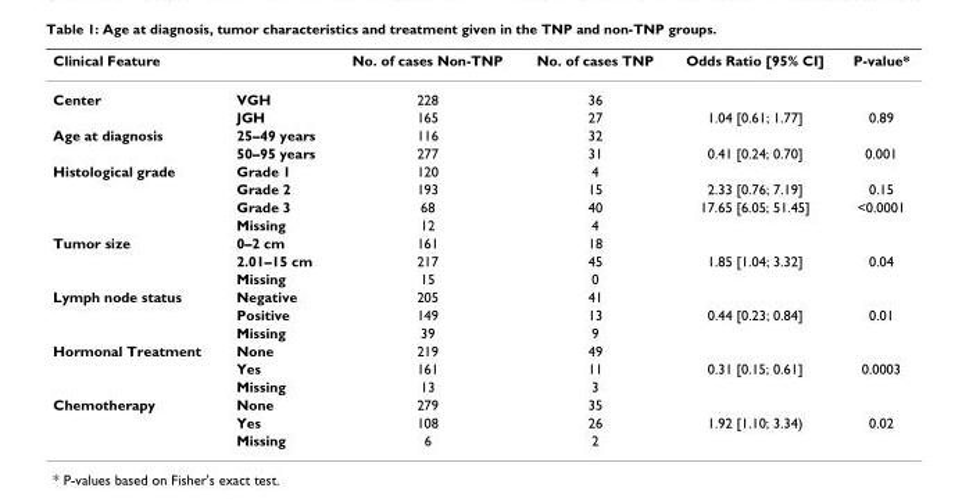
<table><thead><tr><td colspan="2">Clinical Feature</td><td rowspan="2">No. of cases Non-TNP 228</td><td rowspan="2">No. of cases TNP 36</td><td rowspan="2">Odds Ratio [95% CI]</td><td rowspan="2">P-value*</td></tr><tr><td>Center</td><td>VGH</td></tr></thead><tbody><tr><td></td><td>JGH</td><td>165</td><td>27</td><td>1.04 [0.61; 1.77]</td><td>0.89</td></tr><tr><td rowspan="2">Age at diagnosis</td><td>25–49 years</td><td>116</td><td>32</td><td></td><td></td></tr><tr><td>50–95 years</td><td>277</td><td>31</td><td>0.41 [0.24; 0.70]</td><td>0.001</td></tr><tr><td rowspan="4">Histological grade</td><td>Grade 1</td><td>120</td><td>4</td><td></td><td></td></tr><tr><td>Grade 2</td><td>193</td><td>15</td><td>2.33 [0.76; 7.19]</td><td>0.15</td></tr><tr><td>Grade 3</td><td>68</td><td>40</td><td>17.65 [6.05; 51.45]</td><td>&lt;0.0001</td></tr><tr><td>Missing</td><td>12</td><td>4</td><td></td><td></td></tr><tr><td rowspan="3">Tumor size</td><td>0–2 cm</td><td>161</td><td>18</td><td></td><td></td></tr><tr><td>2.01–15 cm</td><td>217</td><td>45</td><td>1.85 [1.04; 3.32]</td><td>0.04</td></tr><tr><td>Missing</td><td>15</td><td>0</td><td></td><td></td></tr><tr><td rowspan="3">Lymph node status</td><td>Negative</td><td>205</td><td>41</td><td></td><td></td></tr><tr><td>Positive</td><td>149</td><td>13</td><td>0.44 [0.23; 0.84]</td><td>0.01</td></tr><tr><td>Missing</td><td>39</td><td>9</td><td></td><td></td></tr><tr><td rowspan="3">Hormonal Treatment</td><td>None</td><td>219</td><td>49</td><td></td><td></td></tr><tr><td>Yes</td><td>161</td><td>11</td><td>0.31 [0.15; 0.61]</td><td>0.0003</td></tr><tr><td>Missing</td><td>13</td><td>3</td><td></td><td></td></tr><tr><td rowspan="3">Chemotherapy</td><td>None</td><td>279</td><td>35</td><td></td><td></td></tr><tr><td>Yes</td><td>108</td><td>26</td><td>1.92 [1.10; 3.34)</td><td>0.02</td></tr><tr><td>Missing</td><td>6</td><td>2</td><td></td><td></td></tr></tbody></table>